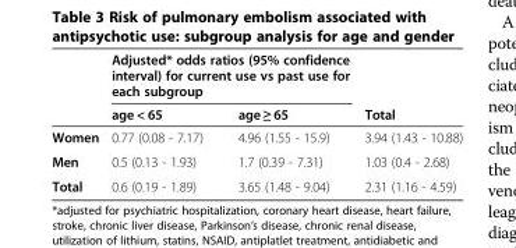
<table><thead><tr><td rowspan="2"></td><td colspan="2">Adjusted* odds ratios (95% confidence interval) for current use vs past use for each subgroup</td><td rowspan="2">Total</td></tr><tr><td>age &lt; 65</td><td>age ≥ 65</td></tr></thead><tbody><tr><td>Women</td><td>0.77 (0.08 - 7.17)</td><td>4.96 (1.55 - 15.9)</td><td>3.94 (1.43 - 10.88)</td></tr><tr><td>Men</td><td>0.5 (0.13 - 1.93)</td><td>1.7 (0.39 - 7.31)</td><td>1.03 (0.4 - 2.68)</td></tr><tr><td>Total</td><td>0.6 (0.19 - 1.89)</td><td>3.65 (1.48 - 9.04)</td><td>2.31 (1.16 - 4.59)</td></tr></tbody></table>